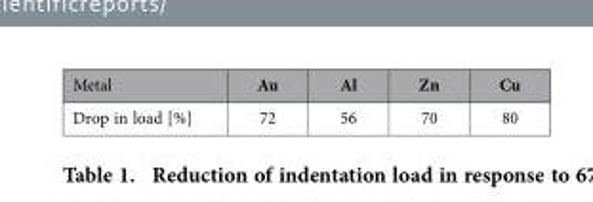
<table><thead><tr><td>Metal</td><td>Au</td><td>Al</td><td>Zn</td><td>Cu</td></tr></thead><tbody><tr><td>Drop in load [%]</td><td>72</td><td>56</td><td>70</td><td>80</td></tr></tbody></table>